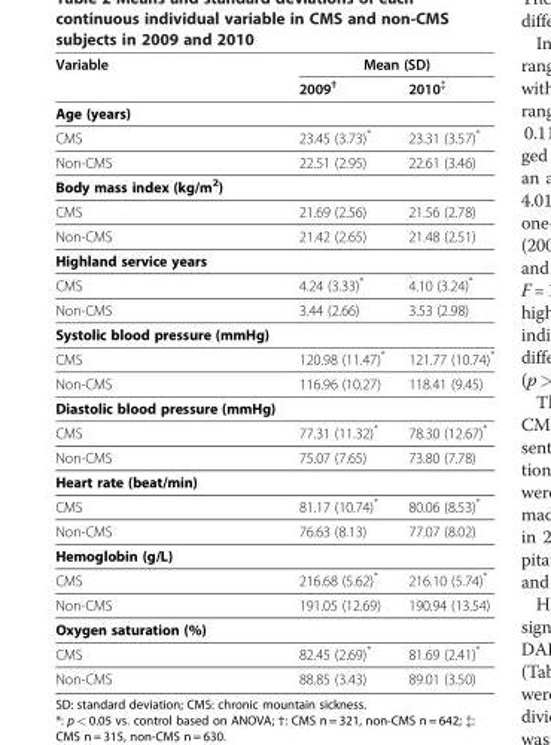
<table><thead><tr><td rowspan="2">Variable</td><td colspan="2">Mean (SD)</td></tr><tr><td>2009<sup>†</sup></td><td>2010<sup>‡</sup></td></tr></thead><tbody><tr><td colspan="3">Age (years)</td></tr><tr><td>CMS</td><td>23.45 (3.73)*</td><td>23.31 (3.57)*</td></tr><tr><td>Non-CMS</td><td>22.51 (2.95)</td><td>22.61 (3.46)</td></tr><tr><td colspan="3">Body mass index (kg/m<sup>2</sup>)</td></tr><tr><td>CMS</td><td>21.69 (2.56)</td><td>21.56 (2.78)</td></tr><tr><td>Non-CMS</td><td>21.42 (2.65)</td><td>21.48 (2.51)</td></tr><tr><td colspan="3">Highland service years</td></tr><tr><td>CMS</td><td>4.24 (3.33)*</td><td>4.10 (3.24)*</td></tr><tr><td>Non-CMS</td><td>3.44 (2.66)</td><td>3.53 (2.98)</td></tr><tr><td colspan="3">Systolic blood pressure (mmHg)</td></tr><tr><td>CMS</td><td>120.98 (11.47)*</td><td>121.77 (10.74)*</td></tr><tr><td>Non-CMS</td><td>116.96 (10.27)</td><td>118.41 (9.45)</td></tr><tr><td colspan="3">Diastolic blood pressure (mmHg)</td></tr><tr><td>CMS</td><td>77.31 (11.32)*</td><td>78.30 (12.67)*</td></tr><tr><td>Non-CMS</td><td>75.07 (7.65)</td><td>73.80 (7.78)</td></tr><tr><td colspan="3">Heart rate (beat/min)</td></tr><tr><td>CMS</td><td>81.17 (10.74)*</td><td>80.06 (8.53)*</td></tr><tr><td>Non-CMS</td><td>76.63 (8.13)</td><td>77.07 (8.02)</td></tr><tr><td colspan="3">Hemoglobin (g/L)</td></tr><tr><td>CMS</td><td>216.68 (5.62)*</td><td>216.10 (5.74)*</td></tr><tr><td>Non-CMS</td><td>191.05 (12.69)</td><td>190.94 (13.54)</td></tr><tr><td colspan="3">Oxygen saturation (%)</td></tr><tr><td>CMS</td><td>82.45 (2.69)*</td><td>81.69 (2.41)*</td></tr><tr><td>Non-CMS</td><td>88.85 (3.43)</td><td>89.01 (3.50)</td></tr></tbody></table>